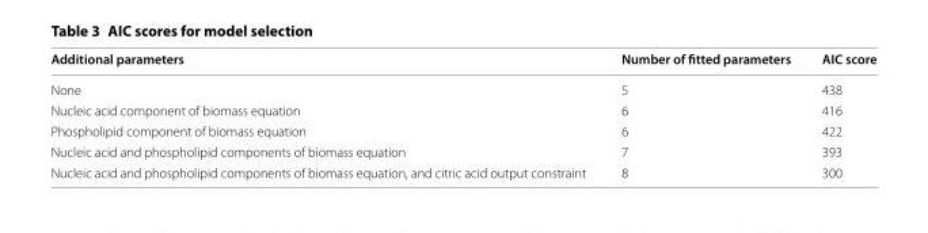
<table><thead><tr><td>Additional parameters</td><td>Number of fitted parameters</td><td>AIC score</td></tr></thead><tbody><tr><td>None</td><td>5</td><td>438</td></tr><tr><td>Nucleic acid component of biomass equation</td><td>6</td><td>416</td></tr><tr><td>Phospholipid component of biomass equation</td><td>6</td><td>422</td></tr><tr><td>Nucleic acid and phospholipid components of biomass equation</td><td>7</td><td>393</td></tr><tr><td>Nucleic acid and phospholipid components of biomass equation, and citric acid output constraint</td><td>8</td><td>300</td></tr></tbody></table>